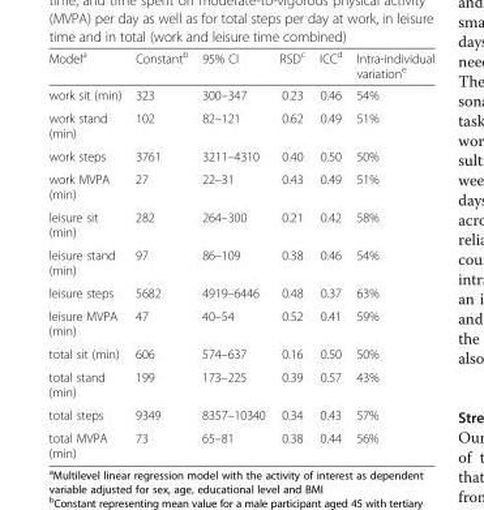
<table><thead><tr><td>Model<sup>a</sup></td><td>Constant<sup>b</sup></td><td>95% CI</td><td>RSD<sup>c</sup></td><td>ICC<sup>d</sup></td><td>Intra-individual variation<sup>e</sup></td></tr></thead><tbody><tr><td>work sit (min)</td><td>323</td><td>300–347</td><td>0.23</td><td>0.46</td><td>54%</td></tr><tr><td>work stand (min)</td><td>102</td><td>82–121</td><td>0.62</td><td>0.49</td><td>51%</td></tr><tr><td>work steps</td><td>3761</td><td>3211–4310</td><td>0.40</td><td>0.50</td><td>50%</td></tr><tr><td>work MVPA (min)</td><td>27</td><td>22–31</td><td>0.43</td><td>0.49</td><td>51%</td></tr><tr><td>leisure sit (min)</td><td>282</td><td>264–300</td><td>0.21</td><td>0.42</td><td>58%</td></tr><tr><td>leisure stand (min)</td><td>97</td><td>86–109</td><td>0.38</td><td>0.46</td><td>54%</td></tr><tr><td>leisure steps</td><td>5682</td><td>4919–6446</td><td>0.48</td><td>0.37</td><td>63%</td></tr><tr><td>leisure MVPA (min)</td><td>47</td><td>40–54</td><td>0.52</td><td>0.41</td><td>59%</td></tr><tr><td>total sit (min)</td><td>606</td><td>574–637</td><td>0.16</td><td>0.50</td><td>50%</td></tr><tr><td>total stand (min)</td><td>199</td><td>173–225</td><td>0.39</td><td>0.57</td><td>43%</td></tr><tr><td>total steps</td><td>9349</td><td>8357–10340</td><td>0.34</td><td>0.43</td><td>57%</td></tr><tr><td>total MVPA (min)</td><td>73</td><td>65–81</td><td>0.38</td><td>0.44</td><td>56%</td></tr></tbody></table>